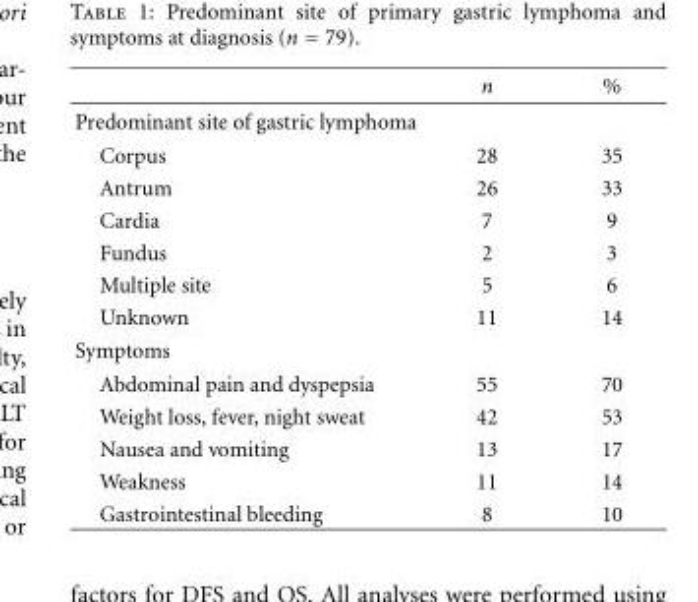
<table><thead><tr><td></td><td>n</td><td>%</td></tr></thead><tbody><tr><td colspan="3">Predominant site of gastric lymphoma</td></tr><tr><td>Corpus</td><td>28</td><td>35</td></tr><tr><td>Antrum</td><td>26</td><td>33</td></tr><tr><td>Cardia</td><td>7</td><td>9</td></tr><tr><td>Fundus</td><td>2</td><td>3</td></tr><tr><td>Multiple site</td><td>5</td><td>6</td></tr><tr><td>Unknown</td><td>11</td><td>14</td></tr><tr><td colspan="3">Symptoms</td></tr><tr><td>Abdominal pain and dyspepsia</td><td>55</td><td>70</td></tr><tr><td>Weight loss, fever, night sweat</td><td>42</td><td>53</td></tr><tr><td>Nausea and vomiting</td><td>13</td><td>17</td></tr><tr><td>Weakness</td><td>11</td><td>14</td></tr><tr><td>Gastrointestinal bleeding</td><td>8</td><td>10</td></tr></tbody></table>